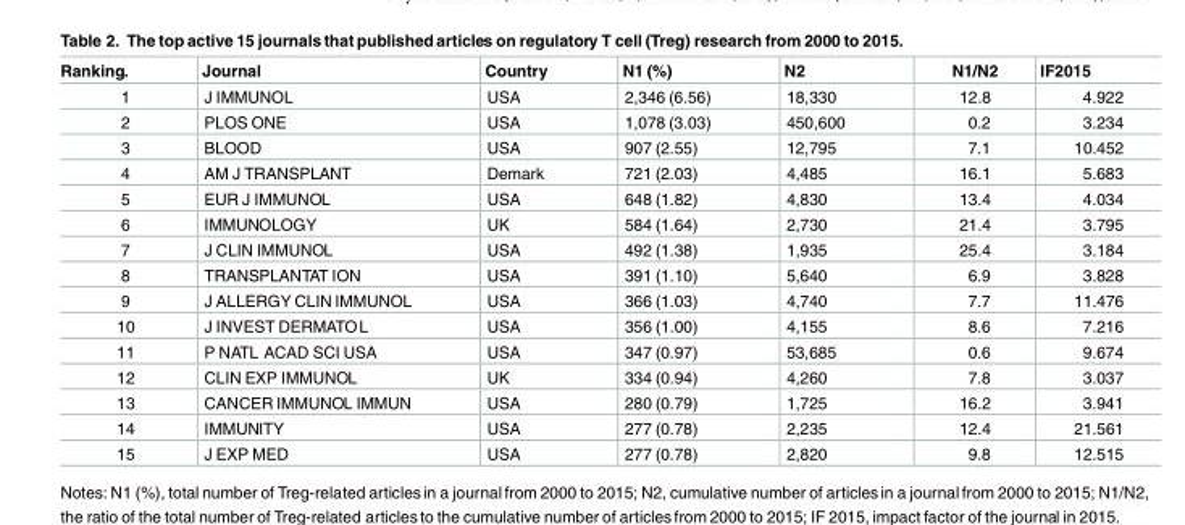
<table><thead><tr><td>Ranking.</td><td>Journal</td><td>Country</td><td>N1 (%)</td><td>N2</td><td>N1/N2</td><td>IF2015</td></tr></thead><tbody><tr><td>1</td><td>J IMMUNOL</td><td>USA</td><td>2,346 (6.56)</td><td>18,330</td><td>12.8</td><td>4.922</td></tr><tr><td>2</td><td>PLOS ONE</td><td>USA</td><td>1,078 (3.03)</td><td>450,600</td><td>0.2</td><td>3.234</td></tr><tr><td>3</td><td>BLOOD</td><td>USA</td><td>907 (2.55)</td><td>12,795</td><td>7.1</td><td>10.452</td></tr><tr><td>4</td><td>AM J TRANSPLANT</td><td>Demark</td><td>721 (2.03)</td><td>4,485</td><td>16.1</td><td>5.683</td></tr><tr><td>5</td><td>EUR J IMMUNOL</td><td>USA</td><td>648 (1.82)</td><td>4,830</td><td>13.4</td><td>4.034</td></tr><tr><td>6</td><td>IMMUNOLOGY</td><td>UK</td><td>584 (1.64)</td><td>2,730</td><td>21.4</td><td>3.795</td></tr><tr><td>7</td><td>J CLIN IMMUNOL</td><td>USA</td><td>492 (1.38)</td><td>1,935</td><td>25.4</td><td>3.184</td></tr><tr><td>8</td><td>TRANSPLANTAT ION</td><td>USA</td><td>391 (1.10)</td><td>5,640</td><td>6.9</td><td>3.828</td></tr><tr><td>9</td><td>J ALLERGY CLIN IMMUNOL</td><td>USA</td><td>366 (1.03)</td><td>4,740</td><td>7.7</td><td>11.476</td></tr><tr><td>10</td><td>J INVEST DERMATOL</td><td>USA</td><td>356 (1.00)</td><td>4,155</td><td>8.6</td><td>7.216</td></tr><tr><td>11</td><td>P NATL ACAD SCI USA</td><td>USA</td><td>347 (0.97)</td><td>53,685</td><td>0.6</td><td>9.674</td></tr><tr><td>12</td><td>CLIN EXP IMMUNOL</td><td>UK</td><td>334 (0.94)</td><td>4,260</td><td>7.8</td><td>3.037</td></tr><tr><td>13</td><td>CANCER IMMUNOL IMMUN</td><td>USA</td><td>280 (0.79)</td><td>1,725</td><td>16.2</td><td>3.941</td></tr><tr><td>14</td><td>IMMUNITY</td><td>USA</td><td>277 (0.78)</td><td>2,235</td><td>12.4</td><td>21.561</td></tr><tr><td>15</td><td>J EXP MED</td><td>USA</td><td>277 (0.78)</td><td>2,820</td><td>9.8</td><td>12.515</td></tr></tbody></table>